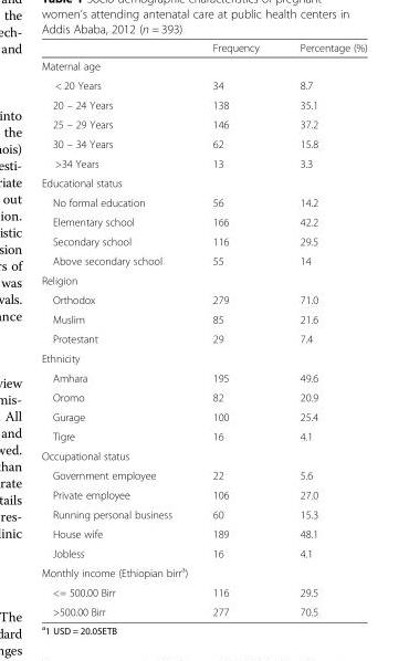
<table><thead><tr><td></td><td>Frequency</td><td>Percentage (%)</td></tr></thead><tbody><tr><td colspan="3">Maternal age</td></tr><tr><td>&lt; 20 Years</td><td>34</td><td>8.7</td></tr><tr><td>20 – 24 Years</td><td>138</td><td>35.1</td></tr><tr><td>25 – 29 Years</td><td>146</td><td>37.2</td></tr><tr><td>30 – 34 Years</td><td>62</td><td>15.8</td></tr><tr><td>&gt;34 Years</td><td>13</td><td>3.3</td></tr><tr><td colspan="3">Educational status</td></tr><tr><td>No formal education</td><td>56</td><td>14.2</td></tr><tr><td>Elementary school</td><td>166</td><td>42.2</td></tr><tr><td>Secondary school</td><td>116</td><td>29.5</td></tr><tr><td>Above secondary school</td><td>55</td><td>14</td></tr><tr><td colspan="3">Religion</td></tr><tr><td>Orthodox</td><td>279</td><td>71.0</td></tr><tr><td>Muslim</td><td>85</td><td>21.6</td></tr><tr><td>Protestant</td><td>29</td><td>7.4</td></tr><tr><td colspan="3">Ethnicity</td></tr><tr><td>Amhara</td><td>195</td><td>49.6</td></tr><tr><td>Oromo</td><td>82</td><td>20.9</td></tr><tr><td>Gurage</td><td>100</td><td>25.4</td></tr><tr><td>Tigre</td><td>16</td><td>4.1</td></tr><tr><td colspan="3">Occupational status</td></tr><tr><td>Government employee</td><td>22</td><td>5.6</td></tr><tr><td>Private employee</td><td>106</td><td>27.0</td></tr><tr><td>Running personal business</td><td>60</td><td>15.3</td></tr><tr><td>House wife</td><td>189</td><td>48.1</td></tr><tr><td>Jobless</td><td>16</td><td>4.1</td></tr><tr><td colspan="3">Monthly income (Ethiopian birr<sup>a</sup>)</td></tr><tr><td>&lt;= 500.00 Birr</td><td>116</td><td>29.5</td></tr><tr><td>&gt;500.00 Birr</td><td>277</td><td>70.5</td></tr></tbody></table>